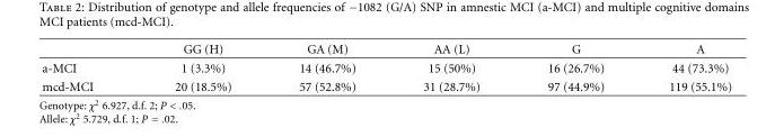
<table><thead><tr><td></td><td>GG (H)</td><td>GA (M)</td><td>AA (L)</td><td>G</td><td>A</td></tr></thead><tbody><tr><td>a-MCI</td><td>1 (3.3%)</td><td>14 (46.7%)</td><td>15 (50%)</td><td>16 (26.7%)</td><td>44 (73.3%)</td></tr><tr><td>mcd-MCI</td><td>20 (18.5%)</td><td>57 (52.8%)</td><td>31 (28.7%)</td><td>97 (44.9%)</td><td>119 (55.1%)</td></tr></tbody></table>